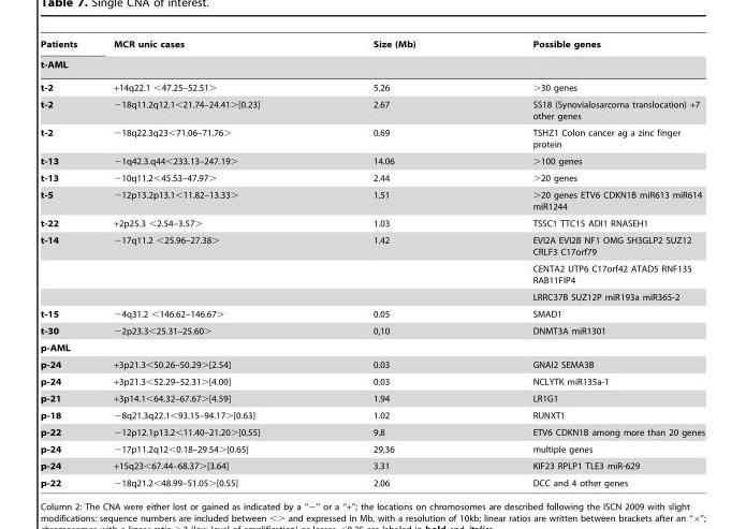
<table><thead><tr><td rowspan="2">Patients t-AML</td><td rowspan="2">MCR unic cases</td><td rowspan="2">Size (Mb)</td><td rowspan="2">Possible genes</td></tr><tr></tr></thead><tbody><tr><td>t-2</td><td>+14q22.1 &lt;47.25–52.51&gt;</td><td>5.26</td><td>&gt;30 genes</td></tr><tr><td>t-2</td><td>−18q11.2q12.1&lt;21.74–24.41&gt;[0.23]</td><td>2.67</td><td>SS18 (Synovialosarcoma translocation) +7 other genes</td></tr><tr><td>t-2</td><td>−18q22.3q23&lt;71.06–71.76&gt;</td><td>0.69</td><td>TSHZ1 Colon cancer ag a zinc finger protein</td></tr><tr><td>t-13</td><td>−1q42.3.q44&lt;233.13–247.19&gt;</td><td>14.06</td><td>&gt;100 genes</td></tr><tr><td>t-13</td><td>−10q11.2&lt;45.53–47.97&gt;</td><td>2.44</td><td>&gt;20 genes</td></tr><tr><td>t-5</td><td>−12p13.2p13.1&lt;11.82–13.33&gt;</td><td>1.51</td><td>&gt;20 genes ETV6 CDKN1B miR613 miR614 miR1244</td></tr><tr><td>t-22</td><td>+2p25.3 &lt;2.54–3.57&gt;</td><td>1.03</td><td>TSSC1 TTC15 ADI1 RNASEH1</td></tr><tr><td rowspan="3">t-14</td><td>−17q11.2 &lt;25.96–27.38&gt;</td><td>1.42</td><td>EVI2A EVI2B NF1 OMG SH3GLP2 SUZ12 CRLF3 C17orf79</td></tr><tr><td></td><td></td><td>CENTA2 UTP6 C17orf42 ATAD5 RNF135 RAB11FIP4</td></tr><tr><td></td><td></td><td>LRRC37B SUZ12P miR193a miR365-2</td></tr><tr><td>t-15</td><td>−4q31.2 &lt;146.62–146.67&gt;</td><td>0.05</td><td>SMAD1</td></tr><tr><td>t-30</td><td>−2p23.3&lt;25.31–25.60&gt;</td><td>0,10</td><td>DNMT3A miR1301</td></tr><tr><td colspan="4">p-AML</td></tr><tr><td>p-24</td><td>+3p21.3&lt;50.26–50.29&gt;[2.54]</td><td>0.03</td><td>GNAI2 SEMA3B</td></tr><tr><td>p-24</td><td>+3p21.3&lt;52.29–52.31&gt;[4.00]</td><td>0.03</td><td>NCLYTK miR135a-1</td></tr><tr><td>p-21</td><td>+3p14.1&lt;64.32–67.67&gt;[4.59]</td><td>1.94</td><td>LR1G1</td></tr><tr><td>p-18</td><td>−8q21.3q22.1&lt;93.15–94.17&gt;[0.63]</td><td>1.02</td><td>RUNXT1</td></tr><tr><td>p-22</td><td>−12p12.1p13.2&lt;11.40–21.20&gt;[0.55]</td><td>9.8</td><td>ETV6 CDKN1B among more than 20 genes</td></tr><tr><td>p-24</td><td>−17p11.2q12&lt;0.18–29.54&gt;[0.65]</td><td>29,36</td><td>multiple genes</td></tr><tr><td>p-24</td><td>+15q23&lt;67.44–68.37&gt;[3.64]</td><td>3.31</td><td>KIF23 RPLP1 TLE3 miR-629</td></tr><tr><td>p-22</td><td>−18q21.2&lt;48.99–51.05&gt;[0.55]</td><td>2.06</td><td>DCC and 4 other genes</td></tr></tbody></table>